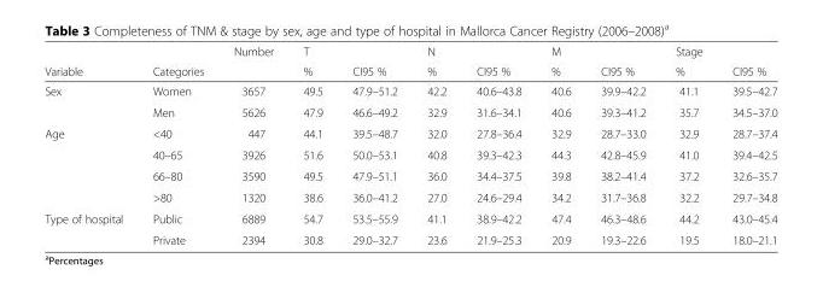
<table><thead><tr><td rowspan="2">Variable</td><td rowspan="2">Categories</td><td rowspan="2">Number</td><td rowspan="2">T %</td><td rowspan="2">CI95 %</td><td rowspan="2">N %</td><td rowspan="2">CI95 %</td><td rowspan="2">M %</td><td rowspan="2">CI95 %</td><td rowspan="2">Stage %</td><td rowspan="2">CI95 %</td></tr><tr></tr></thead><tbody><tr><td rowspan="2">Sex</td><td>Women</td><td>3657</td><td>49.5</td><td>47.9–51.2</td><td>42.2</td><td>40.6–43.8</td><td>40.6</td><td>39.9–42.2</td><td>41.1</td><td>39.5–42.7</td></tr><tr><td>Men</td><td>5626</td><td>47.9</td><td>46.6–49.2</td><td>32.9</td><td>31.6–34.1</td><td>40.6</td><td>39.3–41.2</td><td>35.7</td><td>34.5–37.0</td></tr><tr><td rowspan="4">Age</td><td>&lt;40</td><td>447</td><td>44.1</td><td>39.5–48.7</td><td>32.0</td><td>27.8–36.4</td><td>32.9</td><td>28.7–33.0</td><td>32.9</td><td>28.7–37.4</td></tr><tr><td>40–65</td><td>3926</td><td>51.6</td><td>50.0–53.1</td><td>40.8</td><td>39.3–42.3</td><td>44.3</td><td>42.8–45.9</td><td>41.0</td><td>39.4–42.5</td></tr><tr><td>66–80</td><td>3590</td><td>49.5</td><td>47.9–51.1</td><td>36.0</td><td>34.4–37.5</td><td>39.8</td><td>38.2–41.4</td><td>37.2</td><td>32.6–35.7</td></tr><tr><td>&gt;80</td><td>1320</td><td>38.6</td><td>36.0–41.2</td><td>27.0</td><td>24.6–29.4</td><td>34.2</td><td>31.7–36.8</td><td>32.2</td><td>29.7–34.8</td></tr><tr><td rowspan="2">Type of hospital</td><td>Public</td><td>6889</td><td>54.7</td><td>53.5–55.9</td><td>41.1</td><td>38.9–42.2</td><td>47.4</td><td>46.3–48.6</td><td>44.2</td><td>43.0–45.4</td></tr><tr><td>Private</td><td>2394</td><td>30.8</td><td>29.0–32.7</td><td>23.6</td><td>21.9–25.3</td><td>20.9</td><td>19.3–22.6</td><td>19.5</td><td>18.0–21.1</td></tr></tbody></table>